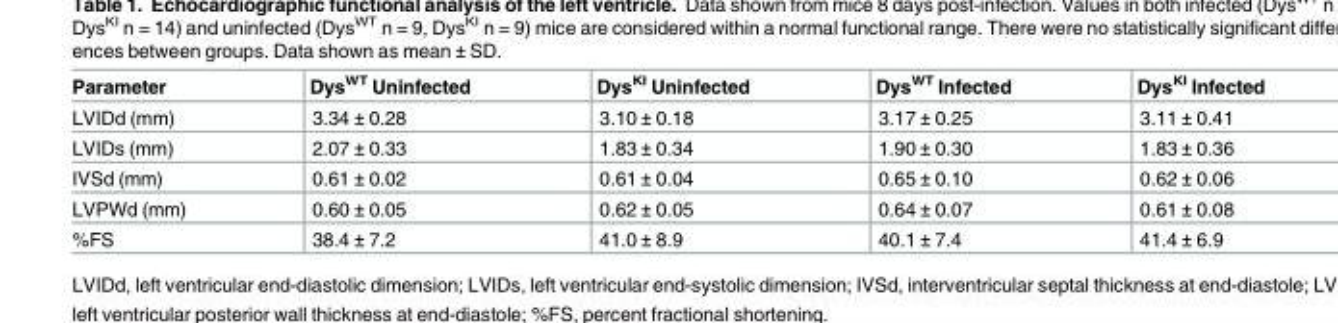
<table><thead><tr><td>Parameter</td><td>Dys<sup>WT</sup> Uninfected</td><td>Dys<sup>KI</sup> Uninfected</td><td>Dys<sup>WT</sup> Infected</td><td>Dys<sup>KI</sup> Infected</td></tr></thead><tbody><tr><td>LVIDd (mm)</td><td>3.34 ± 0.28</td><td>3.10 ± 0.18</td><td>3.17 ± 0.25</td><td>3.11 ± 0.41</td></tr><tr><td>LVIDs (mm)</td><td>2.07 ± 0.33</td><td>1.83 ± 0.34</td><td>1.90 ± 0.30</td><td>1.83 ± 0.36</td></tr><tr><td>IVSd (mm)</td><td>0.61 ± 0.02</td><td>0.61 ± 0.04</td><td>0.65 ± 0.10</td><td>0.62 ± 0.06</td></tr><tr><td>LVPWd (mm)</td><td>0.60 ± 0.05</td><td>0.62 ± 0.05</td><td>0.64 ± 0.07</td><td>0.61 ± 0.08</td></tr><tr><td>%FS</td><td>38.4 ± 7.2</td><td>41.0 ± 8.9</td><td>40.1 ± 7.4</td><td>41.4 ± 6.9</td></tr></tbody></table>